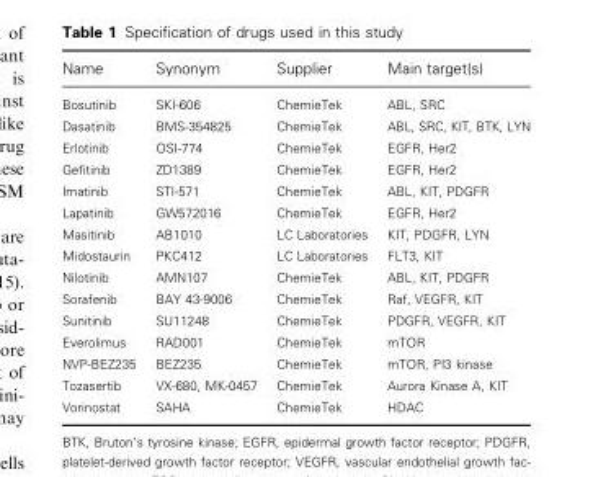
<table><thead><tr><td>Name</td><td>Synonym</td><td>Supplier</td><td>Main target(s)</td></tr></thead><tbody><tr><td>Bosutinib</td><td>SKI-606</td><td>ChemieTek</td><td>ABL, SRC</td></tr><tr><td>Dasatinib</td><td>BMS-354825</td><td>ChemieTek</td><td>ABL, SRC, KIT, BTK, LYN</td></tr><tr><td>Erlotinib</td><td>OSI-774</td><td>ChemieTek</td><td>EGFR, Her2</td></tr><tr><td>Gefitinib</td><td>ZD1389</td><td>ChemieTek</td><td>EGFR, Her2</td></tr><tr><td>Imatinib</td><td>STI-571</td><td>ChemieTek</td><td>ABL, KIT, PDGFR</td></tr><tr><td>Lapatinib</td><td>GW572016</td><td>ChemieTek</td><td>EGFR, Her2</td></tr><tr><td>Masitinib</td><td>AB1010</td><td>LC Laboratories</td><td>KIT, PDGFR, LYN</td></tr><tr><td>Midostaurin</td><td>PKC412</td><td>LC Laboratories</td><td>FLT3, KIT</td></tr><tr><td>Nilotinib</td><td>AMN107</td><td>ChemieTek</td><td>ABL, KIT, PDGFR</td></tr><tr><td>Sorafenib</td><td>BAY 43-9006</td><td>ChemieTek</td><td>Raf, VEGFR, KIT</td></tr><tr><td>Sunitinib</td><td>SU11248</td><td>ChemieTek</td><td>PDGFR, VEGFR, KIT</td></tr><tr><td>Everolimus</td><td>RAD001</td><td>ChemieTek</td><td>mTOR</td></tr><tr><td>NVP-BEZ235</td><td>BEZ235</td><td>ChemieTek</td><td>mTOR, PI3 kinase</td></tr><tr><td>Tozasertib</td><td>VX-680, MK-0457</td><td>ChemieTek</td><td>Aurora Kinase A, KIT</td></tr><tr><td>Vorinostat</td><td>SAHA</td><td>ChemieTek</td><td>HDAC</td></tr></tbody></table>